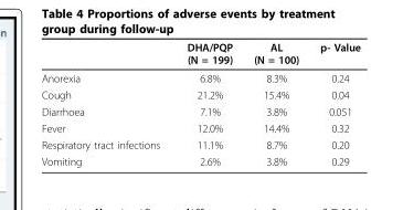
<table><thead><tr><td></td><td>DHA/PQP (N = 199)</td><td>AL (N = 100)</td><td>p- Value</td></tr></thead><tbody><tr><td>Anorexia</td><td>6.8%</td><td>8.3%</td><td>0.24</td></tr><tr><td>Cough</td><td>21.2%</td><td>15.4%</td><td>0.04</td></tr><tr><td>Diarrhoea</td><td>7.1%</td><td>3.8%</td><td>0.051</td></tr><tr><td>Fever</td><td>12.0%</td><td>14.4%</td><td>0.32</td></tr><tr><td>Respiratory tract infections</td><td>11.1%</td><td>8.7%</td><td>0.20</td></tr><tr><td>Vomiting</td><td>2.6%</td><td>3.8%</td><td>0.29</td></tr></tbody></table>